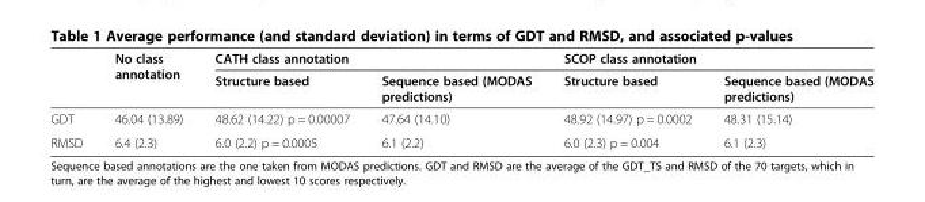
<table><thead><tr><td rowspan="2"></td><td rowspan="2">No class annotation</td><td colspan="2">CATH class annotation</td><td colspan="2">SCOP class annotation</td></tr><tr><td>Structure based</td><td>Sequence based (MODAS predictions)</td><td>Structure based</td><td>Sequence based (MODAS predictions)</td></tr></thead><tbody><tr><td>GDT</td><td>46.04 (13.89)</td><td>48.62 (14.22) p = 0.00007</td><td>47.64 (14.10)</td><td>48.92 (14.97) p = 0.0002</td><td>48.31 (15.14)</td></tr><tr><td>RMSD</td><td>6.4 (2.3)</td><td>6.0 (2.2) p = 0.0005</td><td>6.1 (2.2)</td><td>6.0 (2.3) p = 0.004</td><td>6.1 (2.3)</td></tr></tbody></table>